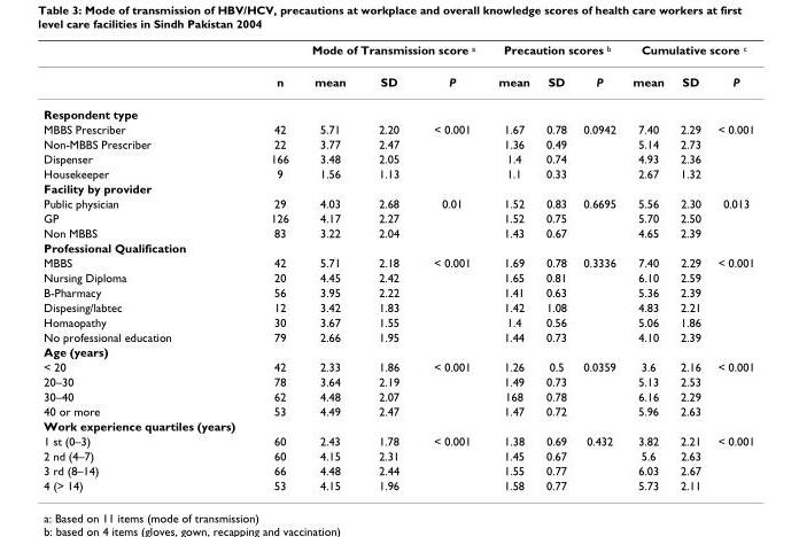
<table><thead><tr><td rowspan="2"></td><td rowspan="2">n</td><td colspan="3">Mode of Transmission score <sup>a</sup></td><td colspan="3">Precaution scores <sup>b</sup></td><td colspan="3">Cumulative score <sup>c</sup></td></tr><tr><td>mean</td><td>SD</td><td>P</td><td>mean</td><td>SD</td><td>P</td><td>mean</td><td>SD</td><td>P</td></tr></thead><tbody><tr><td colspan="11">Respondent type</td></tr><tr><td>MBBS Prescriber</td><td>42</td><td>5.71</td><td>2.20</td><td>&lt; 0.001</td><td>1.67</td><td>0.78</td><td>0.0942</td><td>7.40</td><td>2.29</td><td>&lt; 0.001</td></tr><tr><td>Non-MBBS Prescriber</td><td>22</td><td>3.77</td><td>2.47</td><td></td><td>1.36</td><td>0.49</td><td></td><td>5.14</td><td>2.73</td><td></td></tr><tr><td>Dispenser</td><td>166</td><td>3.48</td><td>2.05</td><td></td><td>1.4</td><td>0.74</td><td></td><td>4.93</td><td>2.36</td><td></td></tr><tr><td>Housekeeper</td><td>9</td><td>1.56</td><td>1.13</td><td></td><td>1.1</td><td>0.33</td><td></td><td>2.67</td><td>1.32</td><td></td></tr><tr><td colspan="11">Facility by provider</td></tr><tr><td>Public physician</td><td>29</td><td>4.03</td><td>2.68</td><td>0.01</td><td>1.52</td><td>0.83</td><td>0.6695</td><td>5.56</td><td>2.30</td><td>0.013</td></tr><tr><td>GP</td><td>126</td><td>4.17</td><td>2.27</td><td></td><td>1.52</td><td>0.75</td><td></td><td>5.70</td><td>2.50</td><td></td></tr><tr><td>Non MBBS</td><td>83</td><td>3.22</td><td>2.04</td><td></td><td>1.43</td><td>0.67</td><td></td><td>4.65</td><td>2.39</td><td></td></tr><tr><td colspan="11">Professional Qualification</td></tr><tr><td>MBBS</td><td>42</td><td>5.71</td><td>2.18</td><td>&lt; 0.001</td><td>1.69</td><td>0.78</td><td>0.3336</td><td>7.40</td><td>2.29</td><td>&lt; 0.001</td></tr><tr><td>Nursing Diploma</td><td>20</td><td>4.45</td><td>2.42</td><td></td><td>1.65</td><td>0.81</td><td></td><td>6.10</td><td>2.59</td><td></td></tr><tr><td>B-Pharmacy</td><td>56</td><td>3.95</td><td>2.22</td><td></td><td>1.41</td><td>0.63</td><td></td><td>5.36</td><td>2.39</td><td></td></tr><tr><td>Dispesing/labtec</td><td>12</td><td>3.42</td><td>1.83</td><td></td><td>1.42</td><td>1.08</td><td></td><td>4.83</td><td>2.21</td><td></td></tr><tr><td>Homaopathy</td><td>30</td><td>3.67</td><td>1.55</td><td></td><td>1.4</td><td>0.56</td><td></td><td>5.06</td><td>1.86</td><td></td></tr><tr><td>No professional education</td><td>79</td><td>2.66</td><td>1.95</td><td></td><td>1.44</td><td>0.73</td><td></td><td>4.10</td><td>2.39</td><td></td></tr><tr><td colspan="11">Age (years)</td></tr><tr><td>&lt; 20</td><td>42</td><td>2.33</td><td>1.86</td><td>&lt; 0.001</td><td>1.26</td><td>0.5</td><td>0.0359</td><td>3.6</td><td>2.16</td><td>&lt; 0.001</td></tr><tr><td>20–30</td><td>78</td><td>3.64</td><td>2.19</td><td></td><td>1.49</td><td>0.73</td><td></td><td>5.13</td><td>2.53</td><td></td></tr><tr><td>30–40</td><td>62</td><td>4.48</td><td>2.07</td><td></td><td>168</td><td>0.78</td><td></td><td>6.16</td><td>2.29</td><td></td></tr><tr><td>40 or more</td><td>53</td><td>4.49</td><td>2.47</td><td></td><td>1.47</td><td>0.72</td><td></td><td>5.96</td><td>2.63</td><td></td></tr><tr><td colspan="11">Work experience quartiles (years)</td></tr><tr><td>1 st (0–3)</td><td>60</td><td>2.43</td><td>1.78</td><td>&lt; 0.001</td><td>1.38</td><td>0.69</td><td>0.432</td><td>3.82</td><td>2.21</td><td>&lt; 0.001</td></tr><tr><td>2 nd (4–7)</td><td>60</td><td>4.15</td><td>2.31</td><td></td><td>1.45</td><td>0.67</td><td></td><td>5.6</td><td>2.63</td><td></td></tr><tr><td>3 rd (8–14)</td><td>66</td><td>4.48</td><td>2.44</td><td></td><td>1.55</td><td>0.77</td><td></td><td>6.03</td><td>2.67</td><td></td></tr><tr><td>4 (&gt; 14)</td><td>53</td><td>4.15</td><td>1.96</td><td></td><td>1.58</td><td>0.77</td><td></td><td>5.73</td><td>2.11</td><td></td></tr></tbody></table>